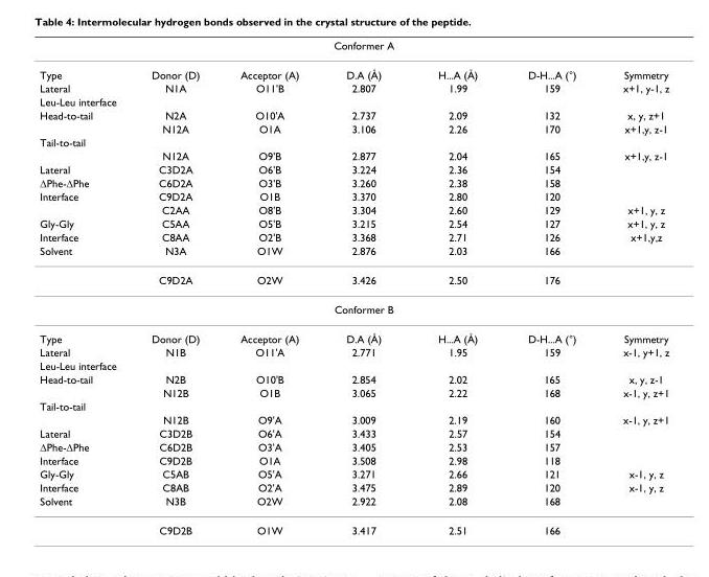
<table><thead><tr><td colspan="7">Conformer A</td></tr><tr><td>Type</td><td>Donor (D)</td><td>Acceptor (A)</td><td>D.A (Å)</td><td>H...A (Å)</td><td>D-H...A (°)</td><td>Symmetry</td></tr></thead><tbody><tr><td>Lateral</td><td>N1A</td><td>O11&#x27;B</td><td>2.807</td><td>1.99</td><td>159</td><td>x+1, y-1, z</td></tr><tr><td colspan="7">Leu-Leu interface</td></tr><tr><td rowspan="2">Head-to-tail</td><td>N2A</td><td>O10&#x27;A</td><td>2.737</td><td>2.09</td><td>132</td><td>x, y, z+1</td></tr><tr><td>N12A</td><td>O1A</td><td>3.106</td><td>2.26</td><td>170</td><td>x+1,y, z-1</td></tr><tr><td colspan="7">Tail-to-tail</td></tr><tr><td></td><td>N12A</td><td>O9&#x27;B</td><td>2.877</td><td>2.04</td><td>165</td><td>x+1,y, z-1</td></tr><tr><td>Lateral</td><td>C3D2A</td><td>O6&#x27;B</td><td>3.224</td><td>2.36</td><td>154</td><td></td></tr><tr><td>∆Phe-∆Phe</td><td>C6D2A</td><td>O3&#x27;B</td><td>3.260</td><td>2.38</td><td>158</td><td></td></tr><tr><td rowspan="2">Interface</td><td>C9D2A</td><td>O1B</td><td>3.370</td><td>2.80</td><td>120</td><td></td></tr><tr><td>C2AA</td><td>O8&#x27;B</td><td>3.304</td><td>2.60</td><td>129</td><td>x+1, y, z</td></tr><tr><td>Gly-Gly</td><td>C5AA</td><td>O5&#x27;B</td><td>3.215</td><td>2.54</td><td>127</td><td>x+1, y, z</td></tr><tr><td>Interface</td><td>C8AA</td><td>O2&#x27;B</td><td>3.368</td><td>2.71</td><td>126</td><td>x+1,y,z</td></tr><tr><td rowspan="2">Solvent</td><td>N3A</td><td>O1W</td><td>2.876</td><td>2.03</td><td>166</td><td></td></tr><tr><td>C9D2A</td><td>O2W</td><td>3.426</td><td>2.50</td><td>176</td><td></td></tr><tr><td colspan="7">Conformer B</td></tr><tr><td>Type</td><td>Donor (D)</td><td>Acceptor (A)</td><td>D.A (Å)</td><td>H...A (Å)</td><td>D-H...A (°)</td><td>Symmetry</td></tr><tr><td>Lateral</td><td>N1B</td><td>O11&#x27;A</td><td>2.771</td><td>1.95</td><td>159</td><td>x-1, y+1, z</td></tr><tr><td colspan="7">Leu-Leu interface</td></tr><tr><td rowspan="2">Head-to-tail</td><td>N2B</td><td>O10&#x27;B</td><td>2.854</td><td>2.02</td><td>165</td><td>x, y, z-1</td></tr><tr><td>N12B</td><td>O1B</td><td>3.065</td><td>2.22</td><td>168</td><td>x-1, y, z+1</td></tr><tr><td colspan="7">Tail-to-tail</td></tr><tr><td></td><td>N12B</td><td>O9&#x27;A</td><td>3.009</td><td>2.19</td><td>160</td><td>x-1, y, z+1</td></tr><tr><td>Lateral</td><td>C3D2B</td><td>O6&#x27;A</td><td>3.433</td><td>2.57</td><td>154</td><td></td></tr><tr><td>∆Phe-∆Phe</td><td>C6D2B</td><td>O3&#x27;A</td><td>3.405</td><td>2.53</td><td>157</td><td></td></tr><tr><td>Interface</td><td>C9D2B</td><td>O1A</td><td>3.508</td><td>2.98</td><td>118</td><td></td></tr><tr><td>Gly-Gly</td><td>C5AB</td><td>O5&#x27;A</td><td>3.271</td><td>2.66</td><td>121</td><td>x-1, y, z</td></tr><tr><td>Interface</td><td>C8AB</td><td>O2&#x27;A</td><td>3.475</td><td>2.89</td><td>120</td><td>x-1, y, z</td></tr><tr><td rowspan="2">Solvent</td><td>N3B</td><td>O2W</td><td>2.922</td><td>2.08</td><td>168</td><td></td></tr><tr><td>C9D2B</td><td>O1W</td><td>3.417</td><td>2.51</td><td>166</td><td></td></tr></tbody></table>